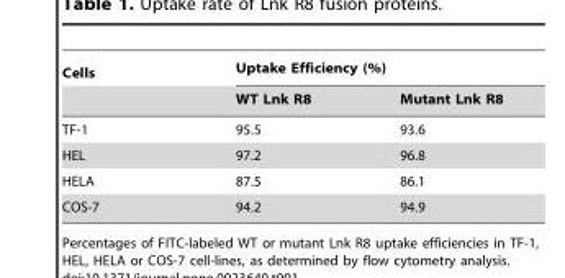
<table><thead><tr><td rowspan="2">Cells</td><td colspan="2">Uptake Efficiency (%)</td></tr><tr><td>WT Lnk R8</td><td>Mutant Lnk R8</td></tr></thead><tbody><tr><td>TF-1</td><td>95.5</td><td>93.6</td></tr><tr><td>HEL</td><td>97.2</td><td>96.8</td></tr><tr><td>HELA</td><td>87.5</td><td>86.1</td></tr><tr><td>COS-7</td><td>94.2</td><td>94.9</td></tr></tbody></table>